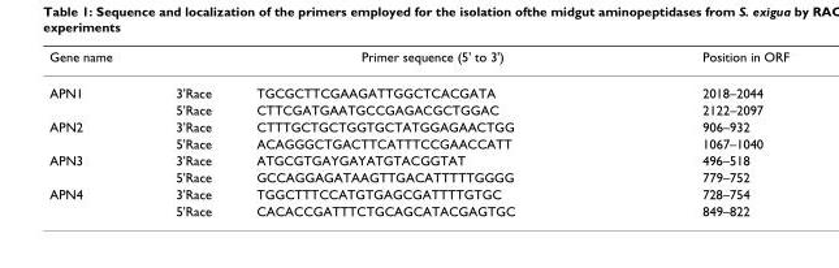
<table><thead><tr><td rowspan="2">Gene name APN1</td><td colspan="2">Primer sequence (5&#x27; to 3&#x27;)</td><td rowspan="2">Position in ORF 2018–2044</td></tr><tr><td>3&#x27;Race</td><td>TGCGCTTCGAAGATTGGCTCACGATA</td></tr></thead><tbody><tr><td></td><td>5&#x27;Race</td><td>CTTCGATGAATGCCGAGACGCTGGAC</td><td>2122–2097</td></tr><tr><td rowspan="2">APN2</td><td>3&#x27;Race</td><td>CTTTGCTGCTGGTGCTATGGAGAACTGG</td><td>906–932</td></tr><tr><td>5&#x27;Race</td><td>ACAGGGCTGACTTCATTTCCGAACCATT</td><td>1067–1040</td></tr><tr><td rowspan="2">APN3</td><td>3&#x27;Race</td><td>ATGCGTGAYGAYATGTACGGTAT</td><td>496–518</td></tr><tr><td>5&#x27;Race</td><td>GCCAGGAGATAAGTTGACATTTTTGGGG</td><td>779–752</td></tr><tr><td rowspan="2">APN4</td><td>3&#x27;Race</td><td>TGGCTTTCCATGTGAGCGATTTTGTGC</td><td>728–754</td></tr><tr><td>5&#x27;Race</td><td>CACACCGATTTCTGCAGCATACGAGTGC</td><td>849–822</td></tr></tbody></table>